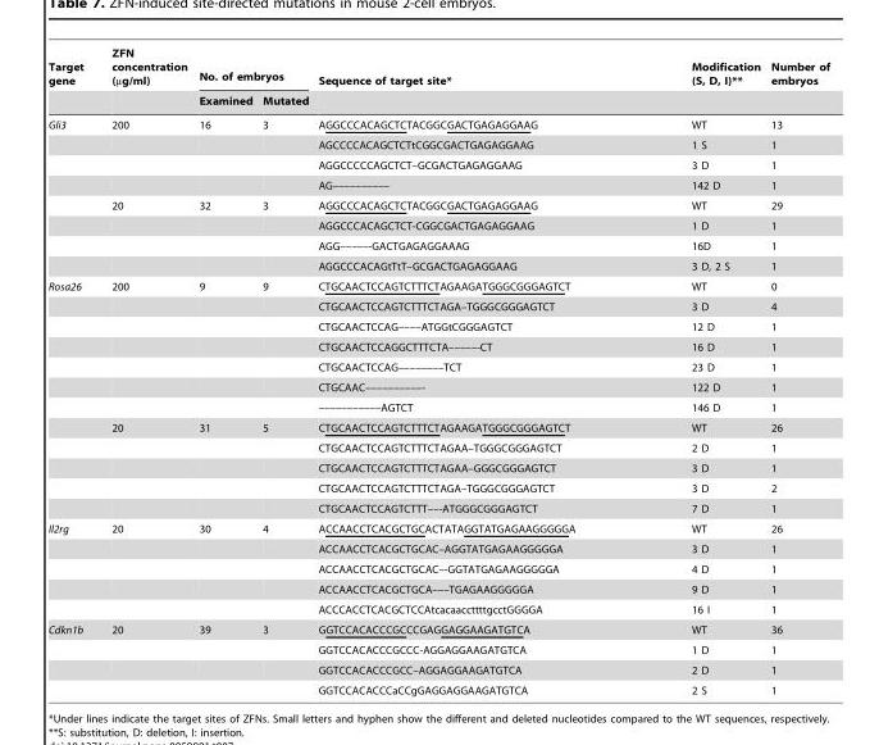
<table><thead><tr><td rowspan="2">Target gene</td><td rowspan="2">ZFN concentration (µg/ml)</td><td colspan="2">No. of embryos</td><td rowspan="2">Sequence of target site*</td><td rowspan="2">Modification (S, D, I)**</td><td rowspan="2">Number of embryos</td></tr><tr><td>Examined</td><td>Mutated</td></tr></thead><tbody><tr><td rowspan="8">Gli3</td><td>200</td><td>16</td><td>3</td><td>AGGCCCACAGCTCTACGGCGACTGAGAGGAAG</td><td>WT</td><td>13</td></tr><tr><td></td><td></td><td></td><td>AGCCCCACAGCTCTtCGGCGACTGAGAGGAAG</td><td>1 S</td><td>1</td></tr><tr><td></td><td></td><td></td><td>AGGCCCCCAGCTCT–GCGACTGAGAGGAAG</td><td>3 D</td><td>1</td></tr><tr><td></td><td></td><td></td><td>AG––––––––––</td><td>142 D</td><td>1</td></tr><tr><td>20</td><td>32</td><td>3</td><td>AGGCCCACAGCTCTACGGCGACTGAGAGGAAG</td><td>WT</td><td>29</td></tr><tr><td></td><td></td><td></td><td>AGGCCCACAGCTCT-CGGCGACTGAGAGGAAG</td><td>1 D</td><td>1</td></tr><tr><td></td><td></td><td></td><td>AGG–––––-GACTGAGAGGAAAG</td><td>16D</td><td>1</td></tr><tr><td></td><td></td><td></td><td>AGGCCCACAGtTtT–GCGACTGAGAGGAAG</td><td>3 D, 2 S</td><td>1</td></tr><tr><td rowspan="12">Rosa26</td><td>200</td><td>9</td><td>9</td><td>CTGCAACTCCAGTCTTTCTAGAAGATGGGCGGGAGTCT</td><td>WT</td><td>0</td></tr><tr><td></td><td></td><td></td><td>CTGCAACTCCAGTCTTTCTAGA–TGGGCGGGAGTCT</td><td>3 D</td><td>4</td></tr><tr><td></td><td></td><td></td><td>CTGCAACTCCAG––––ATGGtCGGGAGTCT</td><td>12 D</td><td>1</td></tr><tr><td></td><td></td><td></td><td>CTGCAACTCCAGGCTTTCTA–––––-CT</td><td>16 D</td><td>1</td></tr><tr><td></td><td></td><td></td><td>CTGCAACTCCAG––––––––TCT</td><td>23 D</td><td>1</td></tr><tr><td></td><td></td><td></td><td>CTGCAAC––––––––––-</td><td>122 D</td><td>1</td></tr><tr><td></td><td></td><td></td><td>–––––––––––AGTCT</td><td>146 D</td><td>1</td></tr><tr><td>20</td><td>31</td><td>5</td><td>CTGCAACTCCAGTCTTTCTAGAAGATGGGCGGGAGTCT</td><td>WT</td><td>26</td></tr><tr><td></td><td></td><td></td><td>CTGCAACTCCAGTCTTTCTAGAA–TGGGCGGGAGTCT</td><td>2 D</td><td>1</td></tr><tr><td></td><td></td><td></td><td>CTGCAACTCCAGTCTTTCTAGAA–GGGCGGGAGTCT</td><td>3 D</td><td>1</td></tr><tr><td></td><td></td><td></td><td>CTGCAACTCCAGTCTTTCTAGA–TGGGCGGGAGTCT</td><td>3 D</td><td>2</td></tr><tr><td></td><td></td><td></td><td>CTGCAACTCCAGTCTTT––-ATGGGCGGGAGTCT</td><td>7 D</td><td>1</td></tr><tr><td rowspan="5">Il2rg</td><td>20</td><td>30</td><td>4</td><td>ACCAACCTCACGCTGCACTATAGGTATGAGAAGGGGGA</td><td>WT</td><td>26</td></tr><tr><td></td><td></td><td></td><td>ACCAACCTCACGCTGCAC–AGGTATGAGAAGGGGGA</td><td>3 D</td><td>1</td></tr><tr><td></td><td></td><td></td><td>ACCAACCTCACGCTGCAC–-GGTATGAGAAGGGGGA</td><td>4 D</td><td>1</td></tr><tr><td></td><td></td><td></td><td>ACCAACCTCACGCTGCA–––TGAGAAGGGGGA</td><td>9 D</td><td>1</td></tr><tr><td></td><td></td><td></td><td>ACCCACCTCACGCTCCAtcacaaccttttgcctGGGGA</td><td>16 I</td><td>1</td></tr><tr><td rowspan="4">Cdkn1b</td><td>20</td><td>39</td><td>3</td><td>GGTCCACACCCGCCCGAGGAGGAAGATGTCA</td><td>WT</td><td>36</td></tr><tr><td></td><td></td><td></td><td>GGTCCACACCCGCCC-AGGAGGAAGATGTCA</td><td>1 D</td><td>1</td></tr><tr><td></td><td></td><td></td><td>GGTCCACACCCGCC–AGGAGGAAGATGTCA</td><td>2 D</td><td>1</td></tr><tr><td></td><td></td><td></td><td>GGTCCACACCCaCCgGAGGAGGAAGATGTCA</td><td>2 S</td><td>1</td></tr></tbody></table>